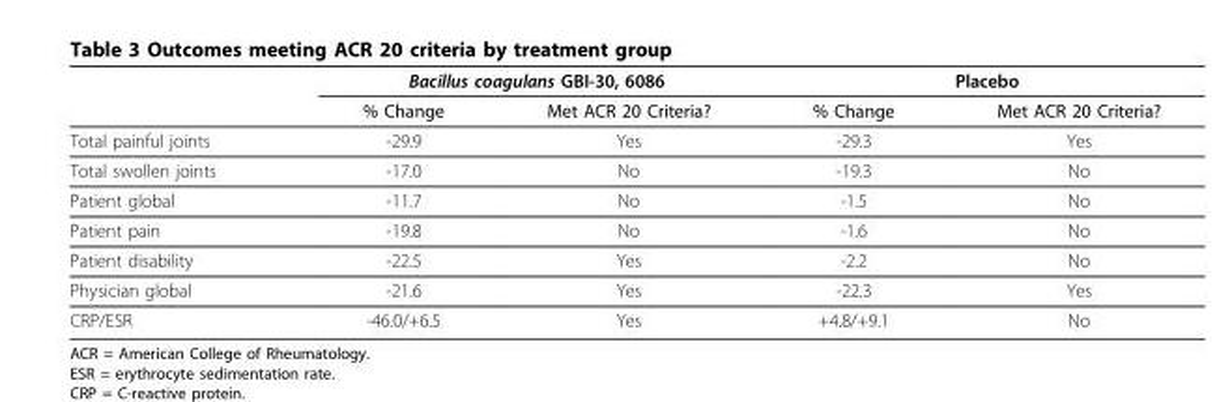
<table><thead><tr><td rowspan="2"></td><td colspan="2">Bacillus coagulans GBI-30, 6086</td><td colspan="2">Placebo</td></tr><tr><td>% Change</td><td>Met ACR 20 Criteria?</td><td>% Change</td><td>Met ACR 20 Criteria?</td></tr></thead><tbody><tr><td>Total painful joints</td><td>-29.9</td><td>Yes</td><td>-29.3</td><td>Yes</td></tr><tr><td>Total swollen joints</td><td>-17.0</td><td>No</td><td>-19.3</td><td>No</td></tr><tr><td>Patient global</td><td>-11.7</td><td>No</td><td>-1.5</td><td>No</td></tr><tr><td>Patient pain</td><td>-19.8</td><td>No</td><td>-1.6</td><td>No</td></tr><tr><td>Patient disability</td><td>-22.5</td><td>Yes</td><td>-2.2</td><td>No</td></tr><tr><td>Physician global</td><td>-21.6</td><td>Yes</td><td>-22.3</td><td>Yes</td></tr><tr><td>CRP/ESR</td><td>-46.0/+6.5</td><td>Yes</td><td>+4.8/+9.1</td><td>No</td></tr></tbody></table>